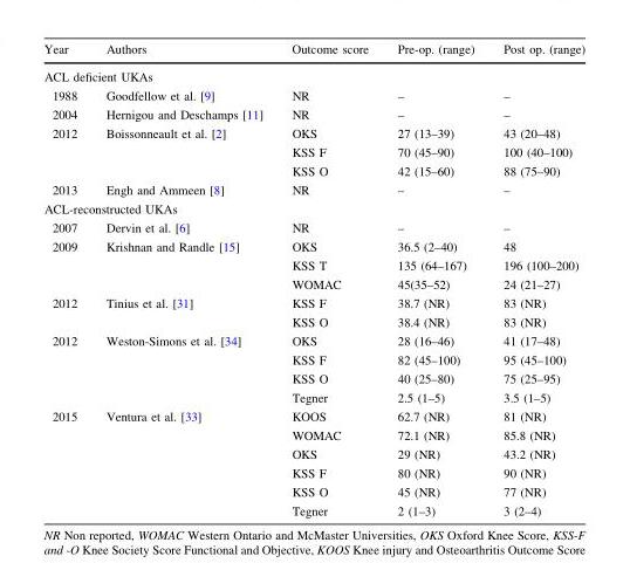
<table><thead><tr><td>Year</td><td>Authors</td><td>Outcome score</td><td>Pre-op. (range)</td><td>Post op. (range)</td></tr></thead><tbody><tr><td colspan="5">ACL deficient UKAs</td></tr><tr><td>1988</td><td>Goodfellow et al. [9]</td><td>NR</td><td>–</td><td>–</td></tr><tr><td>2004</td><td>Hernigou and Deschamps [11]</td><td>NR</td><td>–</td><td>–</td></tr><tr><td rowspan="3">2012</td><td rowspan="3">Boissonneault et al. [2]</td><td>OKS</td><td>27 (13–39)</td><td>43 (20–48)</td></tr><tr><td>KSS F</td><td>70 (45–90)</td><td>100 (40–100)</td></tr><tr><td>KSS O</td><td>42 (15–60)</td><td>88 (75–90)</td></tr><tr><td>2013</td><td>Engh and Ammeen [8]</td><td>NR</td><td>–</td><td>–</td></tr><tr><td colspan="5">ACL-reconstructed UKAs</td></tr><tr><td>2007</td><td>Dervin et al. [6]</td><td>NR</td><td>–</td><td>–</td></tr><tr><td rowspan="3">2009</td><td rowspan="3">Krishnan and Randle [15]</td><td>OKS</td><td>36.5 (2–40)</td><td>48</td></tr><tr><td>KSS T</td><td>135 (64–167)</td><td>196 (100–200)</td></tr><tr><td>WOMAC</td><td>45(35–52)</td><td>24 (21–27)</td></tr><tr><td rowspan="2">2012</td><td rowspan="2">Tinius et al. [31]</td><td>KSS F</td><td>38.7 (NR)</td><td>83 (NR)</td></tr><tr><td>KSS O</td><td>38.4 (NR)</td><td>83 (NR)</td></tr><tr><td rowspan="4">2012</td><td rowspan="4">Weston-Simons et al. [34]</td><td>OKS</td><td>28 (16–46)</td><td>41 (17–48)</td></tr><tr><td>KSS F</td><td>82 (45–100)</td><td>95 (45–100)</td></tr><tr><td>KSS O</td><td>40 (25–80)</td><td>75 (25–95)</td></tr><tr><td>Tegner</td><td>2.5 (1–5)</td><td>3.5 (1–5)</td></tr><tr><td rowspan="6">2015</td><td rowspan="6">Ventura et al. [33]</td><td>KOOS</td><td>62.7 (NR)</td><td>81 (NR)</td></tr><tr><td>WOMAC</td><td>72.1 (NR)</td><td>85.8 (NR)</td></tr><tr><td>OKS</td><td>29 (NR)</td><td>43.2 (NR)</td></tr><tr><td>KSS F</td><td>80 (NR)</td><td>90 (NR)</td></tr><tr><td>KSS O</td><td>45 (NR)</td><td>77 (NR)</td></tr><tr><td>Tegner</td><td>2 (1–3)</td><td>3 (2–4)</td></tr></tbody></table>